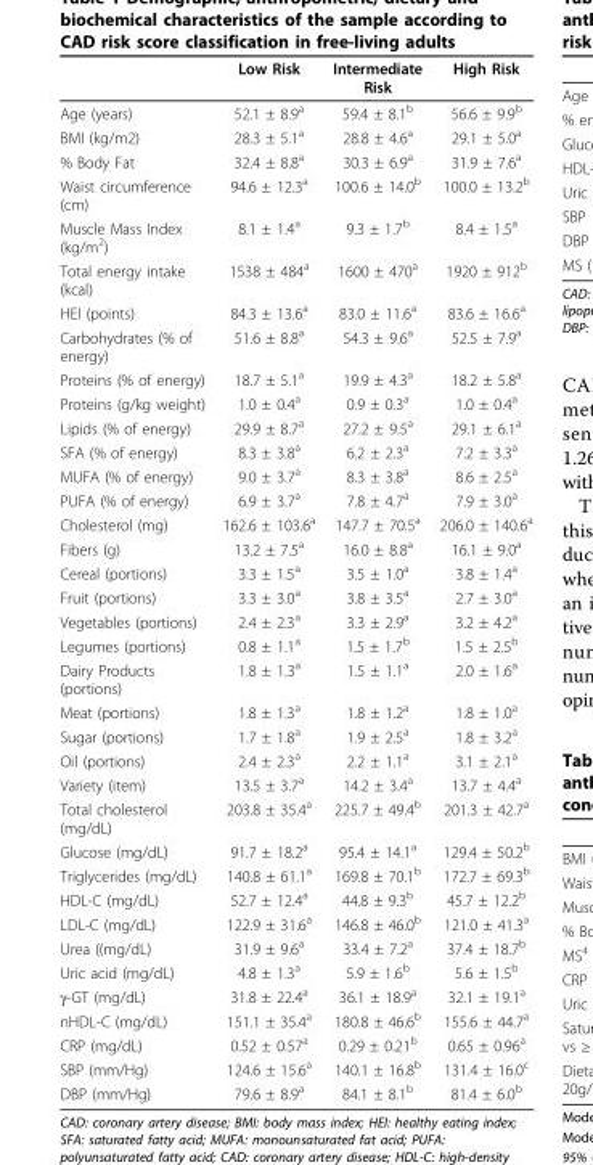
<table><thead><tr><td></td><td>Low Risk</td><td>Intermediate Risk</td><td>High Risk</td></tr></thead><tbody><tr><td>Age (years)</td><td>52.1 ± 8.9<sup>a</sup></td><td>59.4 ± 8.1<sup>b</sup></td><td>56.6 ± 9.9<sup>b</sup></td></tr><tr><td>BMI (kg/m2)</td><td>28.3 ± 5.1<sup>a</sup></td><td>28.8 ± 4.6<sup>a</sup></td><td>29.1 ± 5.0<sup>a</sup></td></tr><tr><td>% Body Fat</td><td>32.4 ± 8.8<sup>a</sup></td><td>30.3 ± 6.9<sup>a</sup></td><td>31.9 ± 7.6<sup>a</sup></td></tr><tr><td>Waist circumference (cm)</td><td>94.6 ± 12.3<sup>a</sup></td><td>100.6 ± 14.0<sup>b</sup></td><td>100.0 ± 13.2<sup>b</sup></td></tr><tr><td>Muscle Mass Index (kg/m<sup>2</sup>)</td><td>8.1 ± 1.4<sup>a</sup></td><td>9.3 ± 1.7<sup>b</sup></td><td>8.4 ± 1.5<sup>a</sup></td></tr><tr><td>Total energy intake (kcal)</td><td>1538 ± 484<sup>a</sup></td><td>1600 ± 470<sup>a</sup></td><td>1920 ± 912<sup>b</sup></td></tr><tr><td>HEI (points)</td><td>84.3 ± 13.6<sup>a</sup></td><td>83.0 ± 11.6<sup>a</sup></td><td>83.6 ± 16.6<sup>a</sup></td></tr><tr><td>Carbohydrates (% of energy)</td><td>51.6 ± 8.8<sup>a</sup></td><td>54.3 ± 9.6<sup>a</sup></td><td>52.5 ± 7.9<sup>a</sup></td></tr><tr><td>Proteins (% of energy)</td><td>18.7 ± 5.1<sup>a</sup></td><td>19.9 ± 4.3<sup>a</sup></td><td>18.2 ± 5.8<sup>a</sup></td></tr><tr><td>Proteins (g/kg weight)</td><td>1.0 ± 0.4<sup>a</sup></td><td>0.9 ± 0.3<sup>a</sup></td><td>1.0 ± 0.4<sup>a</sup></td></tr><tr><td>Lipids (% of energy)</td><td>29.9 ± 8.7<sup>a</sup></td><td>27.2 ± 9.5<sup>a</sup></td><td>29.1 ± 6.1<sup>a</sup></td></tr><tr><td>SFA (% of energy)</td><td>8.3 ± 3.8<sup>a</sup></td><td>6.2 ± 2.3<sup>a</sup></td><td>7.2 ± 3.3<sup>a</sup></td></tr><tr><td>MUFA (% of energy)</td><td>9.0 ± 3.7<sup>a</sup></td><td>8.3 ± 3.8<sup>a</sup></td><td>8.6 ± 2.5<sup>a</sup></td></tr><tr><td>PUFA (% of energy)</td><td>6.9 ± 3.7<sup>a</sup></td><td>7.8 ± 4.7<sup>a</sup></td><td>7.9 ± 3.0<sup>a</sup></td></tr><tr><td>Cholesterol (mg)</td><td>162.6 ± 103.6<sup>a</sup></td><td>147.7 ± 70.5<sup>a</sup></td><td>206.0 ± 140.6<sup>a</sup></td></tr><tr><td>Fibers (g)</td><td>13.2 ± 7.5<sup>a</sup></td><td>16.0 ± 8.8<sup>a</sup></td><td>16.1 ± 9.0<sup>a</sup></td></tr><tr><td>Cereal (portions)</td><td>3.3 ± 1.5<sup>a</sup></td><td>3.5 ± 1.0<sup>a</sup></td><td>3.8 ± 1.4<sup>a</sup></td></tr><tr><td>Fruit (portions)</td><td>3.3 ± 3.0<sup>a</sup></td><td>3.8 ± 3.5<sup>a</sup></td><td>2.7 ± 3.0<sup>a</sup></td></tr><tr><td>Vegetables (portions)</td><td>2.4 ± 2.3<sup>a</sup></td><td>3.3 ± 2.9<sup>a</sup></td><td>3.2 ± 4.2<sup>a</sup></td></tr><tr><td>Legumes (portions)</td><td>0.8 ± 1.1<sup>a</sup></td><td>1.5 ± 1.7<sup>b</sup></td><td>1.5 ± 2.5<sup>b</sup></td></tr><tr><td>Dairy Products (portions)</td><td>1.8 ± 1.3<sup>a</sup></td><td>1.5 ± 1.1<sup>a</sup></td><td>2.0 ± 1.6<sup>a</sup></td></tr><tr><td>Meat (portions)</td><td>1.8 ± 1.3<sup>a</sup></td><td>1.8 ± 1.2<sup>a</sup></td><td>1.8 ± 1.0<sup>a</sup></td></tr><tr><td>Sugar (portions)</td><td>1.7 ± 1.8<sup>a</sup></td><td>1.9 ± 2.5<sup>a</sup></td><td>1.8 ± 3.2<sup>a</sup></td></tr><tr><td>Oil (portions)</td><td>2.4 ± 2.3<sup>a</sup></td><td>2.2 ± 1.1<sup>a</sup></td><td>3.1 ± 2.1<sup>a</sup></td></tr><tr><td>Variety (item)</td><td>13.5 ± 3.7<sup>a</sup></td><td>14.2 ± 3.4<sup>a</sup></td><td>13.7 ± 4.4<sup>a</sup></td></tr><tr><td>Total cholesterol (mg/dL)</td><td>203.8 ± 35.4<sup>a</sup></td><td>225.7 ± 49.4<sup>b</sup></td><td>201.3 ± 42.7<sup>a</sup></td></tr><tr><td>Glucose (mg/dL)</td><td>91.7 ± 18.2<sup>a</sup></td><td>95.4 ± 14.1<sup>a</sup></td><td>129.4 ± 50.2<sup>b</sup></td></tr><tr><td>Triglycerides (mg/dL)</td><td>140.8 ± 61.1<sup>a</sup></td><td>169.8 ± 70.1<sup>b</sup></td><td>172.7 ± 69.3<sup>b</sup></td></tr><tr><td>HDL-C (mg/dL)</td><td>52.7 ± 12.4<sup>a</sup></td><td>44.8 ± 9.3<sup>b</sup></td><td>45.7 ± 12.2<sup>b</sup></td></tr><tr><td>LDL-C (mg/dL)</td><td>122.9 ± 31.6<sup>a</sup></td><td>146.8 ± 46.0<sup>b</sup></td><td>121.0 ± 41.3<sup>a</sup></td></tr><tr><td>Urea ((mg/dL)</td><td>31.9 ± 9.6<sup>a</sup></td><td>33.4 ± 7.2<sup>a</sup></td><td>37.4 ± 18.7<sup>b</sup></td></tr><tr><td>Uric acid (mg/dL)</td><td>4.8 ± 1.3<sup>a</sup></td><td>5.9 ± 1.6<sup>b</sup></td><td>5.6 ± 1.5<sup>b</sup></td></tr><tr><td>γ-GT (mg/dL)</td><td>31.8 ± 22.4<sup>a</sup></td><td>36.1 ± 18.9<sup>a</sup></td><td>32.1 ± 19.1<sup>a</sup></td></tr><tr><td>nHDL-C (mg/dL)</td><td>151.1 ± 35.4<sup>a</sup></td><td>180.8 ± 46.6<sup>b</sup></td><td>155.6 ± 44.7<sup>a</sup></td></tr><tr><td>CRP (mg/dL)</td><td>0.52 ± 0.57<sup>a</sup></td><td>0.29 ± 0.21<sup>b</sup></td><td>0.65 ± 0.96<sup>a</sup></td></tr><tr><td>SBP (mm/Hg)</td><td>124.6 ± 15.6<sup>a</sup></td><td>140.1 ± 16.8<sup>b</sup></td><td>131.4 ± 16.0<sup>c</sup></td></tr><tr><td>DBP (mm/Hg)</td><td>79.6 ± 8.9<sup>a</sup></td><td>84.1 ± 8.1<sup>b</sup></td><td>81.4 ± 6.0<sup>b</sup></td></tr></tbody></table>